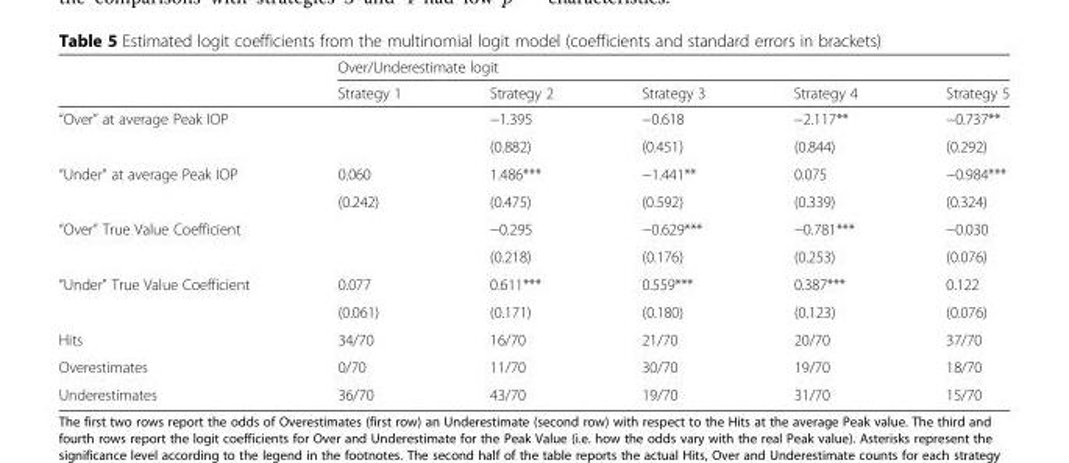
<table><thead><tr><td rowspan="2"></td><td colspan="5">Over/Underestimate logit</td></tr><tr><td>Strategy 1</td><td>Strategy 2</td><td>Strategy 3</td><td>Strategy 4</td><td>Strategy 5</td></tr></thead><tbody><tr><td rowspan="2">“Over” at average Peak IOP</td><td></td><td>−1.395</td><td>−0.618</td><td>−2.117**</td><td>−0.737**</td></tr><tr><td></td><td>(0.882)</td><td>(0.451)</td><td>(0.844)</td><td>(0.292)</td></tr><tr><td rowspan="2">“Under” at average Peak IOP</td><td>0.060</td><td>1.486***</td><td>−1.441**</td><td>0.075</td><td>−0.984***</td></tr><tr><td>(0.242)</td><td>(0.475)</td><td>(0.592)</td><td>(0.339)</td><td>(0.324)</td></tr><tr><td rowspan="2">“Over” True Value Coefficient</td><td></td><td>−0.295</td><td>−0.629***</td><td>−0.781***</td><td>−0.030</td></tr><tr><td></td><td>(0.218)</td><td>(0.176)</td><td>(0.253)</td><td>(0.076)</td></tr><tr><td rowspan="2">“Under” True Value Coefficient</td><td>0.077</td><td>0.611***</td><td>0.559***</td><td>0.387***</td><td>0.122</td></tr><tr><td>(0.061)</td><td>(0.171)</td><td>(0.180)</td><td>(0.123)</td><td>(0.076)</td></tr><tr><td>Hits</td><td>34/70</td><td>16/70</td><td>21/70</td><td>20/70</td><td>37/70</td></tr><tr><td>Overestimates</td><td>0/70</td><td>11/70</td><td>30/70</td><td>19/70</td><td>18/70</td></tr><tr><td>Underestimates</td><td>36/70</td><td>43/70</td><td>19/70</td><td>31/70</td><td>15/70</td></tr></tbody></table>